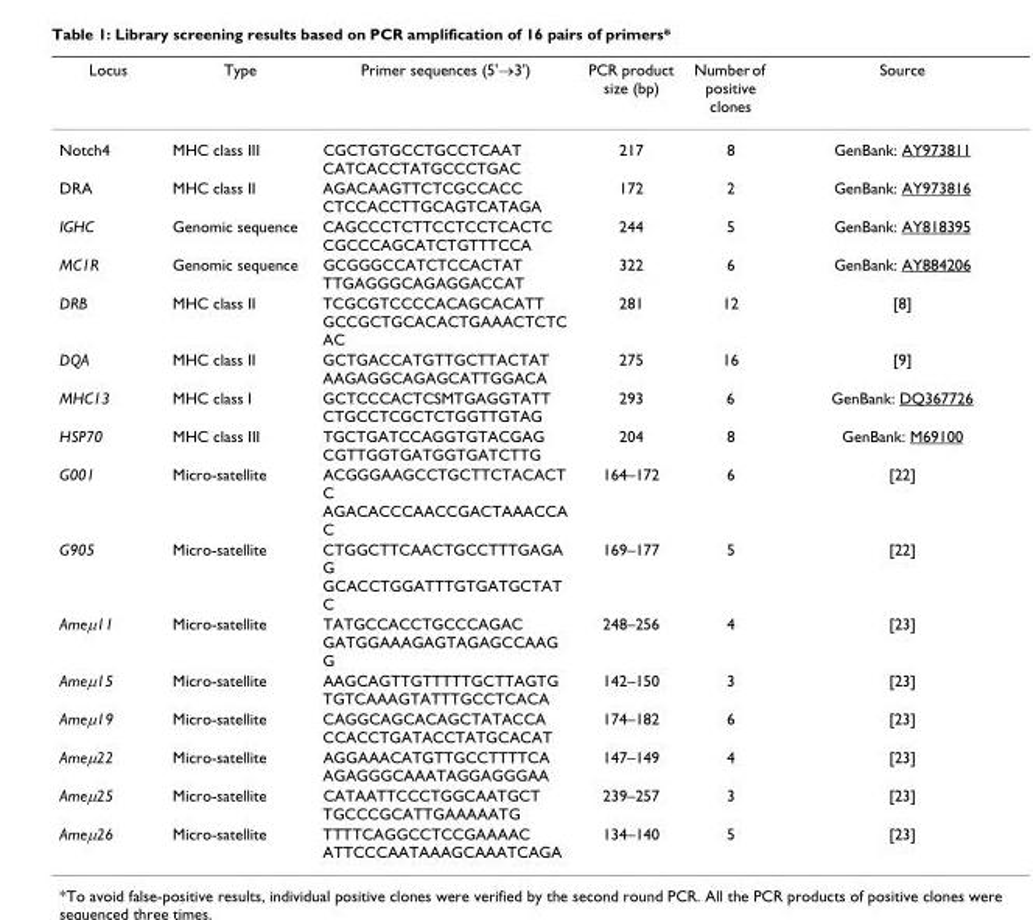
<table><thead><tr><td>Locus</td><td>Type</td><td>Primer sequences (5&#x27;→3&#x27;)</td><td>PCR product size (bp)</td><td>Number of positive clones</td><td>Source</td></tr></thead><tbody><tr><td>Notch4</td><td>MHC class III</td><td>CGCTGTGCCTGCCTCAAT CATCACCTATGCCCTGAC</td><td>217</td><td>8</td><td>GenBank: AY973811</td></tr><tr><td>DRA</td><td>MHC class II</td><td>AGACAAGTTCTCGCCACC CTCCACCTTGCAGTCATAGA</td><td>172</td><td>2</td><td>GenBank: AY973816</td></tr><tr><td>IGHC</td><td>Genomic sequence</td><td>CAGCCCTCTTCCTCCTCACTC CGCCCAGCATCTGTTTCCA</td><td>244</td><td>5</td><td>GenBank: AY818395</td></tr><tr><td>MC1R</td><td>Genomic sequence</td><td>GCGGGCCATCTCCACTAT TTGAGGGCAGAGGACCAT</td><td>322</td><td>6</td><td>GenBank: AY884206</td></tr><tr><td>DRB</td><td>MHC class II</td><td>TCGCGTCCCCACAGCACATT GCCGCTGCACACTGAAACTCTC AC</td><td>281</td><td>12</td><td>[8]</td></tr><tr><td>DQA</td><td>MHC class II</td><td>GCTGACCATGTTGCTTACTAT AAGAGGCAGAGCATTGGACA</td><td>275</td><td>16</td><td>[9]</td></tr><tr><td>MHC13</td><td>MHC class I</td><td>GCTCCCACTCSMTGAGGTATT CTGCCTCGCTCTGGTTGTAG</td><td>293</td><td>6</td><td>GenBank: DQ367726</td></tr><tr><td>HSP70</td><td>MHC class III</td><td>TGCTGATCCAGGTGTACGAG CGTTGGTGATGGTGATCTTG</td><td>204</td><td>8</td><td>GenBank: M69100</td></tr><tr><td>G001</td><td>Micro-satellite</td><td>ACGGGAAGCCTGCTTCTACACT C AGACACCCAACCGACTAAACCA C</td><td>164–172</td><td>6</td><td>[22]</td></tr><tr><td>G905</td><td>Micro-satellite</td><td>CTGGCTTCAACTGCCTTTGAGA G GCACCTGGATTTGTGATGCTAT C</td><td>169–177</td><td>5</td><td>[22]</td></tr><tr><td>Ameμ11</td><td>Micro-satellite</td><td>TATGCCACCTGCCCAGAC GATGGAAAGAGTAGAGCCAAG G</td><td>248–256</td><td>4</td><td>[23]</td></tr><tr><td>Ameμ15</td><td>Micro-satellite</td><td>AAGCAGTTGTTTTTGCTTAGTG TGTCAAAGTATTTGCCTCACA</td><td>142–150</td><td>3</td><td>[23]</td></tr><tr><td>Ameμ19</td><td>Micro-satellite</td><td>CAGGCAGCACAGCTATACCA CCACCTGATACCTATGCACAT</td><td>174–182</td><td>6</td><td>[23]</td></tr><tr><td>Ameμ22</td><td>Micro-satellite</td><td>AGGAAACATGTTGCCTTTTCA AGAGGGCAAATAGGAGGGAA</td><td>147–149</td><td>4</td><td>[23]</td></tr><tr><td>Ameμ25</td><td>Micro-satellite</td><td>CATAATTCCCTGGCAATGCT TGCCCGCATTGAAAAATG</td><td>239–257</td><td>3</td><td>[23]</td></tr><tr><td>Ameμ26</td><td>Micro-satellite</td><td>TTTTCAGGCCTCCGAAAAC ATTCCCAATAAAGCAAATCAGA</td><td>134–140</td><td>5</td><td>[23]</td></tr></tbody></table>